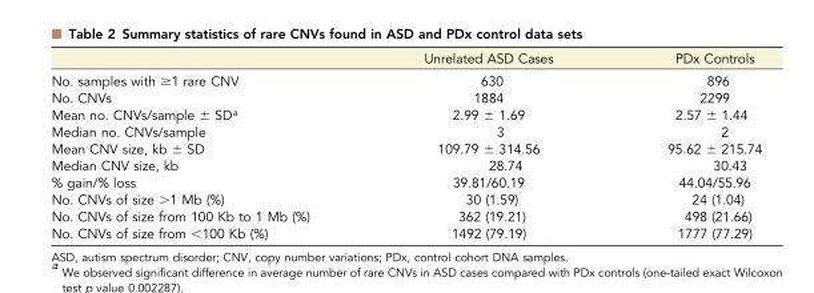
<table><thead><tr><td></td><td>Unrelated ASD Cases</td><td>PDx Controls</td></tr></thead><tbody><tr><td>No. samples with ≥1 rare CNV</td><td>630</td><td>896</td></tr><tr><td>No. CNVs</td><td>1884</td><td>2299</td></tr><tr><td>Mean no. CNVs/sample ± SD<sup>a</sup></td><td>2.99 ± 1.69</td><td>2.57 ± 1.44</td></tr><tr><td>Median no. CNVs/sample</td><td>3</td><td>2</td></tr><tr><td>Mean CNV size, kb ± SD</td><td>109.79 ± 314.56</td><td>95.62 ± 215.74</td></tr><tr><td>Median CNV size, kb</td><td>28.74</td><td>30.43</td></tr><tr><td>% gain/% loss</td><td>39.81/60.19</td><td>44.04/55.96</td></tr><tr><td>No. CNVs of size &gt;1 Mb (%)</td><td>30 (1.59)</td><td>24 (1.04)</td></tr><tr><td>No. CNVs of size from 100 Kb to 1 Mb (%)</td><td>362 (19.21)</td><td>498 (21.66)</td></tr><tr><td>No. CNVs of size from &lt;100 Kb (%)</td><td>1492 (79.19)</td><td>1777 (77.29)</td></tr></tbody></table>